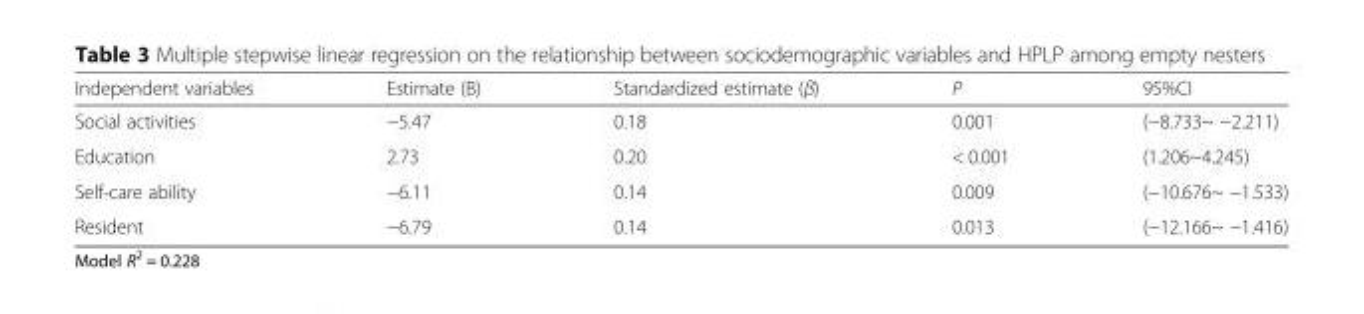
<table><thead><tr><td>Independent variables</td><td>Estimate (B)</td><td>Standardized estimate (β)</td><td>P</td><td>95%CI</td></tr></thead><tbody><tr><td>Social activities</td><td>−5.47</td><td>0.18</td><td>0.001</td><td>(−8.733~ −2.211)</td></tr><tr><td>Education</td><td>2.73</td><td>0.20</td><td>&lt; 0.001</td><td>(1.206~4.245)</td></tr><tr><td>Self-care ability</td><td>−6.11</td><td>0.14</td><td>0.009</td><td>(−10.676~ −1.533)</td></tr><tr><td>Resident</td><td>−6.79</td><td>0.14</td><td>0.013</td><td>(−12.166~ −1.416)</td></tr></tbody></table>